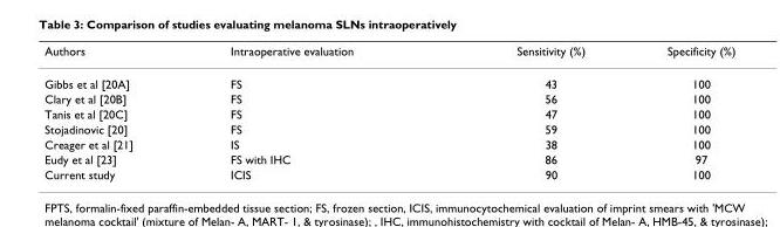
<table><thead><tr><td>Authors</td><td>Intraoperative evaluation</td><td>Sensitivity (%)</td><td>Specificity (%)</td></tr></thead><tbody><tr><td>Gibbs et al [20A]</td><td>FS</td><td>43</td><td>100</td></tr><tr><td>Clary et al [20B]</td><td>FS</td><td>56</td><td>100</td></tr><tr><td>Tanis et al [20C]</td><td>FS</td><td>47</td><td>100</td></tr><tr><td>Stojadinovic [20]</td><td>FS</td><td>59</td><td>100</td></tr><tr><td>Creager et al [21]</td><td>IS</td><td>38</td><td>100</td></tr><tr><td>Eudy et al [23]</td><td>FS with IHC</td><td>86</td><td>97</td></tr><tr><td>Current study</td><td>ICIS</td><td>90</td><td>100</td></tr></tbody></table>